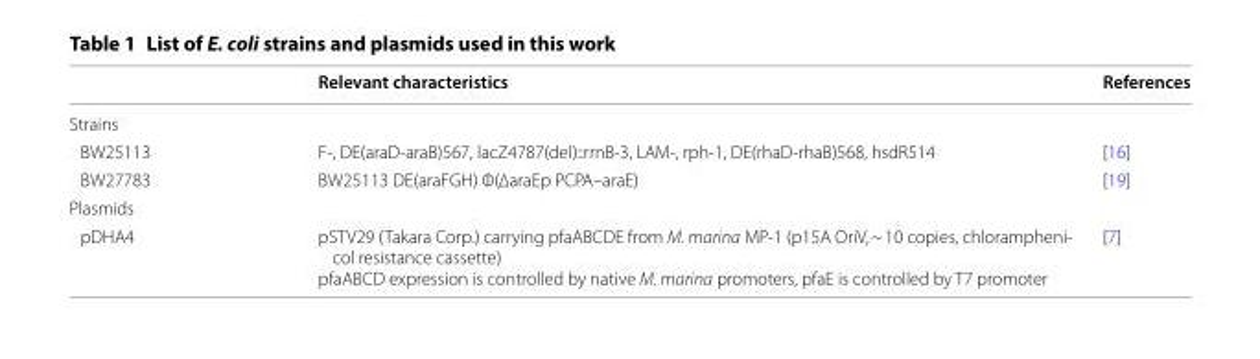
<table><thead><tr><td></td><td>Relevant characteristics</td><td>References</td></tr></thead><tbody><tr><td colspan="3">Strains</td></tr><tr><td>BW25113</td><td>F‑, DE(araD‑araB)567, lacZ4787(del)::rrnB‑3, LAM‑, rph‑1, DE(rhaD‑rhaB)568, hsdR514</td><td>[16]</td></tr><tr><td>BW27783</td><td>BW25113 DE(araFGH) Φ(∆araEp PCPA–araE)</td><td>[19]</td></tr><tr><td colspan="3">Plasmids</td></tr><tr><td>pDHA4</td><td>pSTV29 (Takara Corp.) carrying pfaABCDE from M. marina MP‑1 (p15A OriV, ~ 10 copies, chlorampheni‑ col resistance cassette) pfaABCD expression is controlled by native M. marina promoters, pfaE is controlled by T7 promoter</td><td>[7]</td></tr></tbody></table>